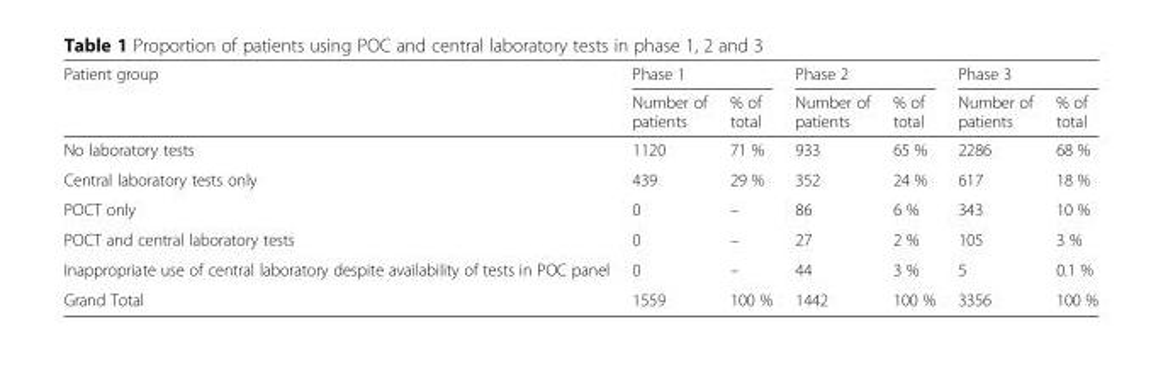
<table><thead><tr><td rowspan="2">Patient group</td><td colspan="2">Phase 1</td><td colspan="2">Phase 2</td><td colspan="2">Phase 3</td></tr><tr><td>Number of patients</td><td>% of total</td><td>Number of patients</td><td>% of total</td><td>Number of patients</td><td>% of total</td></tr></thead><tbody><tr><td>No laboratory tests</td><td>1120</td><td>71 %</td><td>933</td><td>65 %</td><td>2286</td><td>68 %</td></tr><tr><td>Central laboratory tests only</td><td>439</td><td>29 %</td><td>352</td><td>24 %</td><td>617</td><td>18 %</td></tr><tr><td>POCT only</td><td>0</td><td>–</td><td>86</td><td>6 %</td><td>343</td><td>10 %</td></tr><tr><td>POCT and central laboratory tests</td><td>0</td><td>–</td><td>27</td><td>2 %</td><td>105</td><td>3 %</td></tr><tr><td>Inappropriate use of central laboratory despite availability of tests in POC panel</td><td>0</td><td>–</td><td>44</td><td>3 %</td><td>5</td><td>0.1 %</td></tr><tr><td>Grand Total</td><td>1559</td><td>100 %</td><td>1442</td><td>100 %</td><td>3356</td><td>100 %</td></tr></tbody></table>